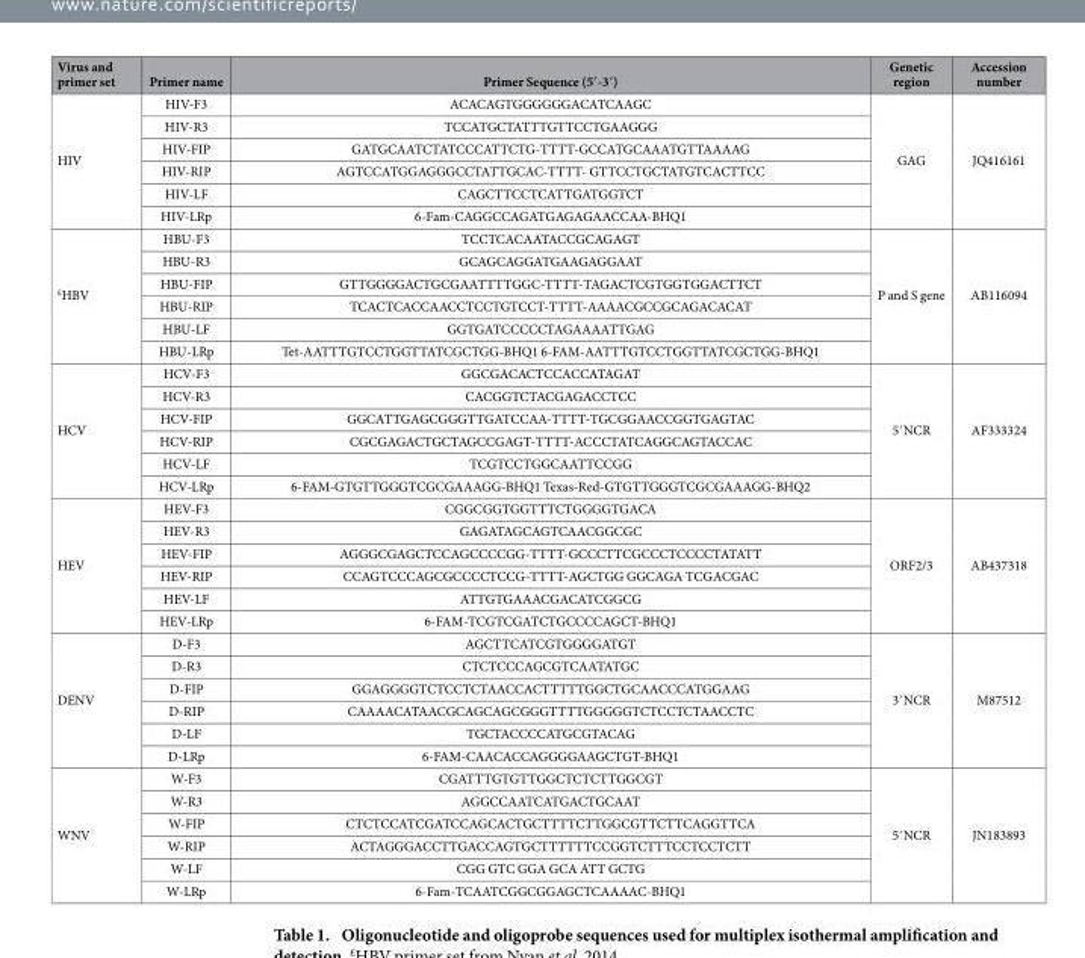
<table><thead><tr><td>Virus and primer set</td><td>Primer name</td><td>Primer Sequence (5′-3′)</td><td>Genetic region</td><td>Accession number</td></tr></thead><tbody><tr><td rowspan="6">HIV</td><td>HIV-F3</td><td>ACACAGTGGGGGGACATCAAGC</td><td rowspan="6">GAG</td><td rowspan="6">JQ416161</td></tr><tr><td>HIV-R3</td><td>TCCATGCTATTTGTTCCTGAAGGG</td></tr><tr><td>HIV-FIP</td><td>GATGCAATCTATCCCATTCTG-TTTT-GCCATGCAAATGTTAAAAG</td></tr><tr><td>HIV-RIP</td><td>AGTCCATGGAGGGCCTATTGCAC-TTTT- GTTCCTGCTATGTCACTTCC</td></tr><tr><td>HIV-LF</td><td>CAGCTTCCTCATTGATGGTCT</td></tr><tr><td>HIV-LRp</td><td>6-Fam-CAGGCCAGATGAGAGAACCAA-BHQ1</td></tr><tr><td rowspan="6"><sup>£</sup>HBV</td><td>HBU-F3</td><td>TCCTCACAATACCGCAGAGT</td><td rowspan="6">P and S gene</td><td rowspan="6">AB116094</td></tr><tr><td>HBU-R3</td><td>GCAGCAGGATGAAGAGGAAT</td></tr><tr><td>HBU-FIP</td><td>GTTGGGGACTGCGAATTTTGGC-TTTT-TAGACTCGTGGTGGACTTCT</td></tr><tr><td>HBU-RIP</td><td>TCACTCACCAACCTCCTGTCCT-TTTT-AAAACGCCGCAGACACAT</td></tr><tr><td>HBU-LF</td><td>GGTGATCCCCCTAGAAAATTGAG</td></tr><tr><td>HBU-LRp</td><td>Tet-AATTTGTCCTGGTTATCGCTGG-BHQ1 6-FAM-AATTTGTCCTGGTTATCGCTGG-BHQ1</td></tr><tr><td rowspan="6">HCV</td><td>HCV-F3</td><td>GGCGACACTCCACCATAGAT</td><td rowspan="6">5′ NCR</td><td rowspan="6">AF333324</td></tr><tr><td>HCV-R3</td><td>CACGGTCTACGAGACCTCC</td></tr><tr><td>HCV-FIP</td><td>GGCATTGAGCGGGTTGATCCAA-TTTT-TGCGGAACCGGTGAGTAC</td></tr><tr><td>HCV-RIP</td><td>CGCGAGACTGCTAGCCGAGT-TTTT-ACCCTATCAGGCAGTACCAC</td></tr><tr><td>HCV-LF</td><td>TCGTCCTGGCAATTCCGG</td></tr><tr><td>HCV-LRp</td><td>6-FAM-GTGTTGGGTCGCGAAAGG-BHQ1 Texas-Red-GTGTTGGGTCGCGAAAGG-BHQ2</td></tr><tr><td rowspan="6">HEV</td><td>HEV-F3</td><td>CGGCGGTGGTTTCTGGGGTGACA</td><td rowspan="6">ORF2/3</td><td rowspan="6">AB437318</td></tr><tr><td>HEV-R3</td><td>GAGATAGCAGTCAACGGCGC</td></tr><tr><td>HEV-FIP</td><td>AGGGCGAGCTCCAGCCCCGG-TTTT-GCCCTTCGCCCTCCCCTATATT</td></tr><tr><td>HEV-RIP</td><td>CCAGTCCCAGCGCCCCTCCG-TTTT-AGCTGG GGCAGA TCGACGAC</td></tr><tr><td>HEV-LF</td><td>ATTGTGAAACGACATCGGCG</td></tr><tr><td>HEV-LRp</td><td>6-FAM-TCGTCGATCTGCCCCAGCT-BHQ1</td></tr><tr><td rowspan="6">DENV</td><td>D-F3</td><td>AGCTTCATCGTGGGGATGT</td><td rowspan="6">3′ NCR</td><td rowspan="6">M87512</td></tr><tr><td>D-R3</td><td>CTCTCCCAGCGTCAATATGC</td></tr><tr><td>D-FIP</td><td>GGAGGGGTCTCCTCTAACCACTTTTTGGCTGCAACCCATGGAAG</td></tr><tr><td>D-RIP</td><td>CAAAACATAACGCAGCAGCGGGTTTTGGGGGTCTCCTCTAACCTC</td></tr><tr><td>D-LF</td><td>TGCTACCCCATGCGTACAG</td></tr><tr><td>D-LRp</td><td>6-FAM-CAACACCAGGGGAAGCTGT-BHQ1</td></tr><tr><td rowspan="6">WNV</td><td>W-F3</td><td>CGATTTGTGTTGGCTCTCTTGGCGT</td><td rowspan="6">5′ NCR</td><td rowspan="6">JN183893</td></tr><tr><td>W-R3</td><td>AGGCCAATCATGACTGCAAT</td></tr><tr><td>W-FIP</td><td>CTCTCCATCGATCCAGCACTGCTTTTCTTGGCGTTCTTCAGGTTCA</td></tr><tr><td>W-RIP</td><td>ACTAGGGACCTTGACCAGTGCTTTTTTCCGGTCTTTCCTCCTCTT</td></tr><tr><td>W-LF</td><td>CGG GTC GGA GCA ATT GCTG</td></tr><tr><td>W-LRp</td><td>6-Fam-TCAATCGGCGGAGCTCAAAAC-BHQ1</td></tr></tbody></table>